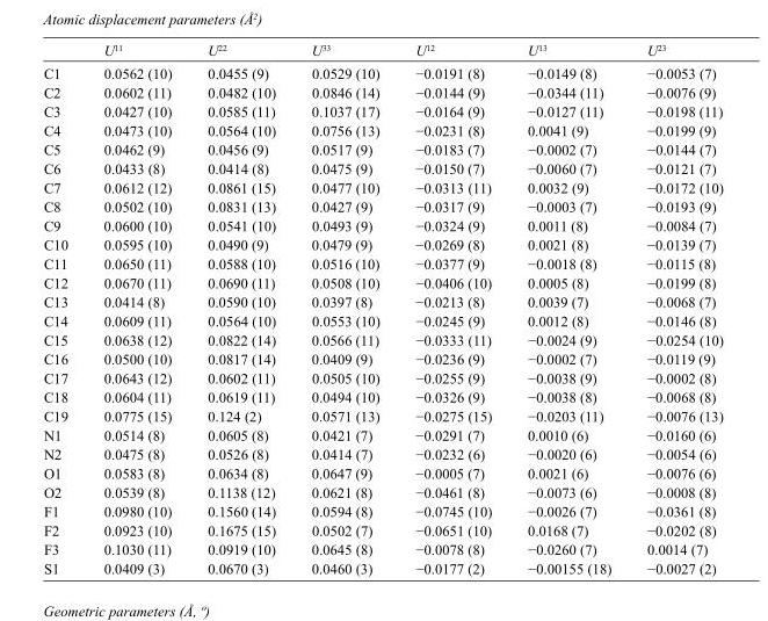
<table><thead><tr><td></td><td>U<sup>11</sup></td><td>U<sup>22</sup></td><td>U<sup>33</sup></td><td>U<sup>12</sup></td><td>U<sup>13</sup></td><td>U<sup>23</sup></td></tr></thead><tbody><tr><td>C1</td><td>0.0562 (10)</td><td>0.0455 (9)</td><td>0.0529 (10)</td><td>−0.0191 (8)</td><td>−0.0149 (8)</td><td>−0.0053 (7)</td></tr><tr><td>C2</td><td>0.0602 (11)</td><td>0.0482 (10)</td><td>0.0846 (14)</td><td>−0.0144 (9)</td><td>−0.0344 (11)</td><td>−0.0076 (9)</td></tr><tr><td>C3</td><td>0.0427 (10)</td><td>0.0585 (11)</td><td>0.1037 (17)</td><td>−0.0164 (9)</td><td>−0.0127 (11)</td><td>−0.0198 (11)</td></tr><tr><td>C4</td><td>0.0473 (10)</td><td>0.0564 (10)</td><td>0.0756 (13)</td><td>−0.0231 (8)</td><td>0.0041 (9)</td><td>−0.0199 (9)</td></tr><tr><td>C5</td><td>0.0462 (9)</td><td>0.0456 (9)</td><td>0.0517 (9)</td><td>−0.0183 (7)</td><td>−0.0002 (7)</td><td>−0.0144 (7)</td></tr><tr><td>C6</td><td>0.0433 (8)</td><td>0.0414 (8)</td><td>0.0475 (9)</td><td>−0.0150 (7)</td><td>−0.0060 (7)</td><td>−0.0121 (7)</td></tr><tr><td>C7</td><td>0.0612 (12)</td><td>0.0861 (15)</td><td>0.0477 (10)</td><td>−0.0313 (11)</td><td>0.0032 (9)</td><td>−0.0172 (10)</td></tr><tr><td>C8</td><td>0.0502 (10)</td><td>0.0831 (13)</td><td>0.0427 (9)</td><td>−0.0317 (9)</td><td>−0.0003 (7)</td><td>−0.0193 (9)</td></tr><tr><td>C9</td><td>0.0600 (10)</td><td>0.0541 (10)</td><td>0.0493 (9)</td><td>−0.0324 (9)</td><td>0.0011 (8)</td><td>−0.0084 (7)</td></tr><tr><td>C10</td><td>0.0595 (10)</td><td>0.0490 (9)</td><td>0.0479 (9)</td><td>−0.0269 (8)</td><td>0.0021 (8)</td><td>−0.0139 (7)</td></tr><tr><td>C11</td><td>0.0650 (11)</td><td>0.0588 (10)</td><td>0.0516 (10)</td><td>−0.0377 (9)</td><td>−0.0018 (8)</td><td>−0.0115 (8)</td></tr><tr><td>C12</td><td>0.0670 (11)</td><td>0.0690 (11)</td><td>0.0508 (10)</td><td>−0.0406 (10)</td><td>0.0005 (8)</td><td>−0.0199 (8)</td></tr><tr><td>C13</td><td>0.0414 (8)</td><td>0.0590 (10)</td><td>0.0397 (8)</td><td>−0.0213 (8)</td><td>0.0039 (7)</td><td>−0.0068 (7)</td></tr><tr><td>C14</td><td>0.0609 (11)</td><td>0.0564 (10)</td><td>0.0553 (10)</td><td>−0.0245 (9)</td><td>0.0012 (8)</td><td>−0.0146 (8)</td></tr><tr><td>C15</td><td>0.0638 (12)</td><td>0.0822 (14)</td><td>0.0566 (11)</td><td>−0.0333 (11)</td><td>−0.0024 (9)</td><td>−0.0254 (10)</td></tr><tr><td>C16</td><td>0.0500 (10)</td><td>0.0817 (14)</td><td>0.0409 (9)</td><td>−0.0236 (9)</td><td>−0.0002 (7)</td><td>−0.0119 (9)</td></tr><tr><td>C17</td><td>0.0643 (12)</td><td>0.0602 (11)</td><td>0.0505 (10)</td><td>−0.0255 (9)</td><td>−0.0038 (9)</td><td>−0.0002 (8)</td></tr><tr><td>C18</td><td>0.0604 (11)</td><td>0.0619 (11)</td><td>0.0494 (10)</td><td>−0.0326 (9)</td><td>−0.0038 (8)</td><td>−0.0068 (8)</td></tr><tr><td>C19</td><td>0.0775 (15)</td><td>0.124 (2)</td><td>0.0571 (13)</td><td>−0.0275 (15)</td><td>−0.0203 (11)</td><td>−0.0076 (13)</td></tr><tr><td>N1</td><td>0.0514 (8)</td><td>0.0605 (8)</td><td>0.0421 (7)</td><td>−0.0291 (7)</td><td>0.0010 (6)</td><td>−0.0160 (6)</td></tr><tr><td>N2</td><td>0.0475 (8)</td><td>0.0526 (8)</td><td>0.0414 (7)</td><td>−0.0232 (6)</td><td>−0.0020 (6)</td><td>−0.0054 (6)</td></tr><tr><td>O1</td><td>0.0583 (8)</td><td>0.0634 (8)</td><td>0.0647 (9)</td><td>−0.0005 (7)</td><td>0.0021 (6)</td><td>−0.0076 (6)</td></tr><tr><td>O2</td><td>0.0539 (8)</td><td>0.1138 (12)</td><td>0.0621 (8)</td><td>−0.0461 (8)</td><td>−0.0073 (6)</td><td>−0.0008 (8)</td></tr><tr><td>F1</td><td>0.0980 (10)</td><td>0.1560 (14)</td><td>0.0594 (8)</td><td>−0.0745 (10)</td><td>−0.0026 (7)</td><td>−0.0361 (8)</td></tr><tr><td>F2</td><td>0.0923 (10)</td><td>0.1675 (15)</td><td>0.0502 (7)</td><td>−0.0651 (10)</td><td>0.0168 (7)</td><td>−0.0202 (8)</td></tr><tr><td>F3</td><td>0.1030 (11)</td><td>0.0919 (10)</td><td>0.0645 (8)</td><td>−0.0078 (8)</td><td>−0.0260 (7)</td><td>0.0014 (7)</td></tr><tr><td>S1</td><td>0.0409 (3)</td><td>0.0670 (3)</td><td>0.0460 (3)</td><td>−0.0177 (2)</td><td>−0.00155 (18)</td><td>−0.0027 (2)</td></tr></tbody></table>